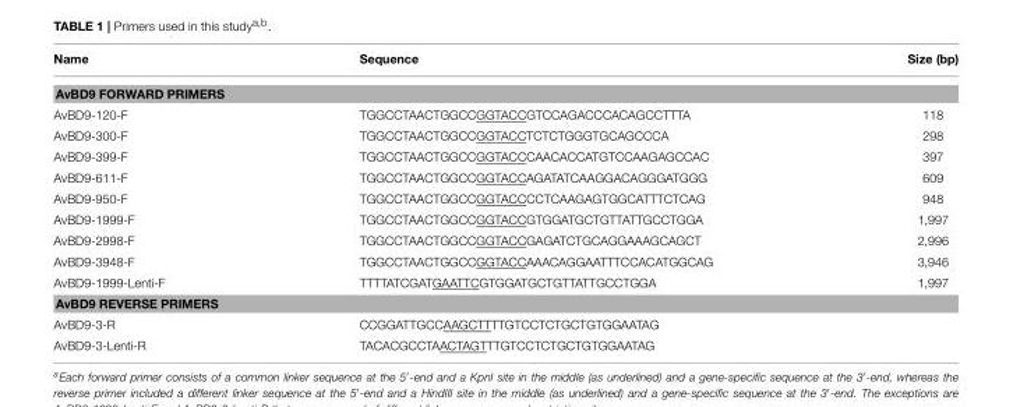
<table><thead><tr><td>Name</td><td>Sequence</td><td>Size (bp)</td></tr></thead><tbody><tr><td colspan="3">AvBD9 FORWARD PRIMERS</td></tr><tr><td>AvBD9-120-F</td><td>TGGCCTAACTGGCCGGTACCGTCCAGACCCACAGCCTTTA</td><td>118</td></tr><tr><td>AvBD9-300-F</td><td>TGGCCTAACTGGCCGGTACCTCTCTGGGTGCAGCCCA</td><td>298</td></tr><tr><td>AvBD9-399-F</td><td>TGGCCTAACTGGCCGGTACCCAACACCATGTCCAAGAGCCAC</td><td>397</td></tr><tr><td>AvBD9-611-F</td><td>TGGCCTAACTGGCCGGTACCAGATATCAAGGACAGGGATGGG</td><td>609</td></tr><tr><td>AvBD9-950-F</td><td>TGGCCTAACTGGCCGGTACCCCTCAAGAGTGGCATTTCTCAG</td><td>948</td></tr><tr><td>AvBD9-1999-F</td><td>TGGCCTAACTGGCCGGTACCGTGGATGCTGTTATTGCCTGGA</td><td>1,997</td></tr><tr><td>AvBD9-2998-F</td><td>TGGCCTAACTGGCCGGTACCGAGATCTGCAGGAAAGCAGCT</td><td>2,996</td></tr><tr><td>AvBD9-3948-F</td><td>TGGCCTAACTGGCCGGTACCAAACAGGAATTTCCACATGGCAG</td><td>3,946</td></tr><tr><td>AvBD9-1999-Lenti-F</td><td>TTTTATCGATGAATTCGTGGATGCTGTTATTGCCTGGA</td><td>1,997</td></tr><tr><td colspan="3">AvBD9 REVERSE PRIMERS</td></tr><tr><td>AvBD9-3-R</td><td>CCGGATTGCCAAGCTTTTGTCCTCTGCTGTGGAATAG</td><td></td></tr><tr><td>AvBD9-3-Lenti-R</td><td>TACACGCCTAACTAGTTTGTCCTCTGCTGTGGAATAG</td><td></td></tr></tbody></table>